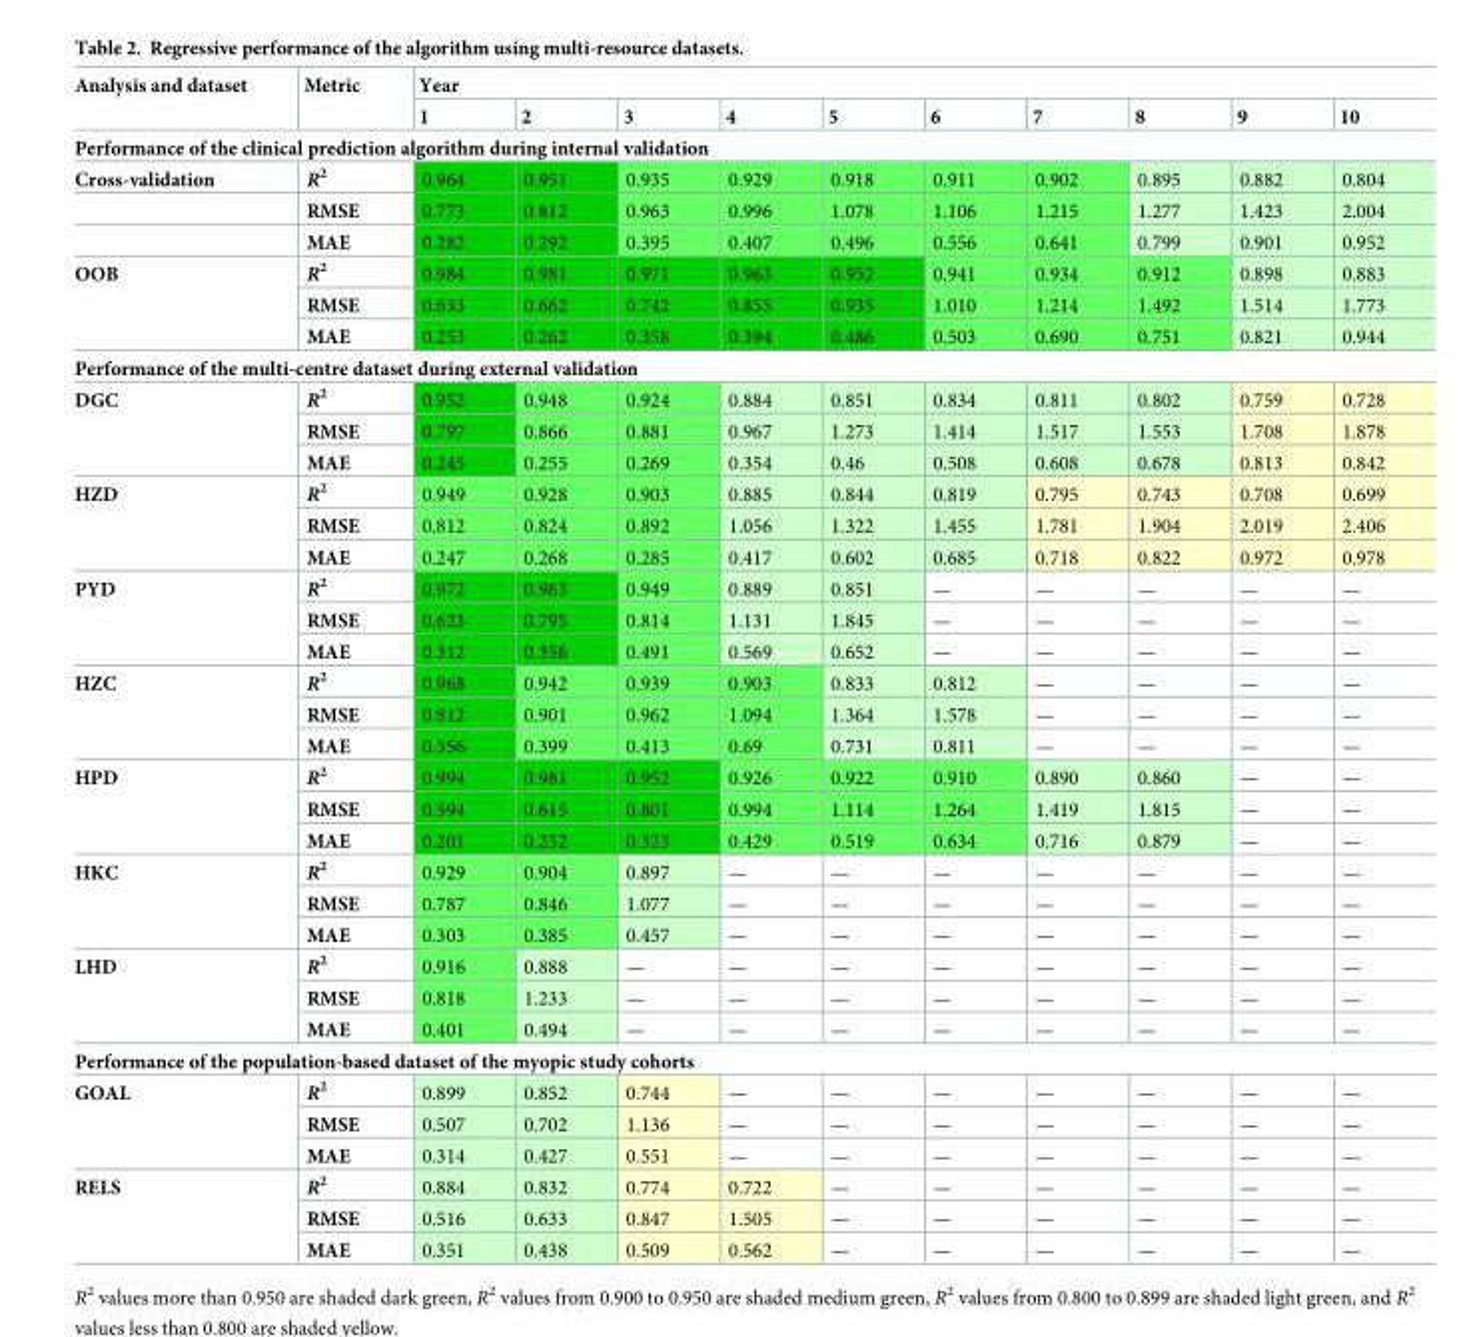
<table><thead><tr><td rowspan="2">Analysis and dataset</td><td rowspan="2">Metric</td><td colspan="10">Year</td></tr><tr><td>1</td><td>2</td><td>3</td><td>4</td><td>5</td><td>6</td><td>7</td><td>8</td><td>9</td><td>10</td></tr></thead><tbody><tr><td colspan="12">Performance of the clinical prediction algorithm during internal validation</td></tr><tr><td rowspan="3">Cross-validation</td><td>R<sup>2</sup></td><td>0.964</td><td>0.951</td><td>0.935</td><td>0.929</td><td>0.918</td><td>0.911</td><td>0.902</td><td>0.895</td><td>0.882</td><td>0.804</td></tr><tr><td>RMSE</td><td>0.773</td><td>0.812</td><td>0.963</td><td>0.996</td><td>1.078</td><td>1.106</td><td>1.215</td><td>1.277</td><td>1.423</td><td>2.004</td></tr><tr><td>MAE</td><td>0.282</td><td>0.292</td><td>0.395</td><td>0.407</td><td>0.496</td><td>0.556</td><td>0.641</td><td>0.799</td><td>0.901</td><td>0.952</td></tr><tr><td rowspan="3">OOB</td><td>R<sup>2</sup></td><td>0.984</td><td>0.981</td><td>0.971</td><td>0.963</td><td>0.952</td><td>0.941</td><td>0.934</td><td>0.912</td><td>0.898</td><td>0.883</td></tr><tr><td>RMSE</td><td>0.633</td><td>0.662</td><td>0.742</td><td>0.855</td><td>0.935</td><td>1.010</td><td>1.214</td><td>1.492</td><td>1.514</td><td>1.773</td></tr><tr><td>MAE</td><td>0.253</td><td>0.262</td><td>0.358</td><td>0.394</td><td>0.486</td><td>0.503</td><td>0.690</td><td>0.751</td><td>0.821</td><td>0.944</td></tr><tr><td colspan="12">Performance of the multi-centre dataset during external validation</td></tr><tr><td rowspan="3">DGC</td><td>R<sup>2</sup></td><td>0.952</td><td>0.948</td><td>0.924</td><td>0.884</td><td>0.851</td><td>0.834</td><td>0.811</td><td>0.802</td><td>0.759</td><td>0.728</td></tr><tr><td>RMSE</td><td>0.797</td><td>0.866</td><td>0.881</td><td>0.967</td><td>1.273</td><td>1.414</td><td>1.517</td><td>1.553</td><td>1.708</td><td>1.878</td></tr><tr><td>MAE</td><td>0.245</td><td>0.255</td><td>0.269</td><td>0.354</td><td>0.46</td><td>0.508</td><td>0.608</td><td>0.678</td><td>0.813</td><td>0.842</td></tr><tr><td rowspan="3">HZD</td><td>R<sup>2</sup></td><td>0.949</td><td>0.928</td><td>0.903</td><td>0.885</td><td>0.844</td><td>0.819</td><td>0.795</td><td>0.743</td><td>0.708</td><td>0.699</td></tr><tr><td>RMSE</td><td>0.812</td><td>0.824</td><td>0.892</td><td>1.056</td><td>1.322</td><td>1.455</td><td>1.781</td><td>1.904</td><td>2.019</td><td>2.406</td></tr><tr><td>MAE</td><td>0.247</td><td>0.268</td><td>0.285</td><td>0.417</td><td>0.602</td><td>0.685</td><td>0.718</td><td>0.822</td><td>0.972</td><td>0.978</td></tr><tr><td rowspan="3">PYD</td><td>R<sup>2</sup></td><td>0.972</td><td>0.963</td><td>0.949</td><td>0.889</td><td>0.851</td><td>—</td><td>—</td><td>—</td><td>—</td><td>—</td></tr><tr><td>RMSE</td><td>0.623</td><td>0.795</td><td>0.814</td><td>1.131</td><td>1.845</td><td>—</td><td>—</td><td>—</td><td>—</td><td>—</td></tr><tr><td>MAE</td><td>0.312</td><td>0.356</td><td>0.491</td><td>0.569</td><td>0.652</td><td>—</td><td>—</td><td>—</td><td>—</td><td>—</td></tr><tr><td rowspan="3">HZC</td><td>R<sup>2</sup></td><td>0.968</td><td>0.942</td><td>0.939</td><td>0.903</td><td>0.833</td><td>0.812</td><td>—</td><td>—</td><td>—</td><td>—</td></tr><tr><td>RMSE</td><td>0.812</td><td>0.901</td><td>0.962</td><td>1.094</td><td>1.364</td><td>1.578</td><td>—</td><td>—</td><td>—</td><td>—</td></tr><tr><td>MAE</td><td>0.356</td><td>0.399</td><td>0.413</td><td>0.69</td><td>0.731</td><td>0.811</td><td>—</td><td>—</td><td>—</td><td>—</td></tr><tr><td rowspan="3">HPD</td><td>R<sup>2</sup></td><td>0.994</td><td>0.981</td><td>0.952</td><td>0.926</td><td>0.922</td><td>0.910</td><td>0.890</td><td>0.860</td><td>—</td><td>—</td></tr><tr><td>RMSE</td><td>0.594</td><td>0.615</td><td>0.801</td><td>0.994</td><td>1.114</td><td>1.264</td><td>1.419</td><td>1.815</td><td>—</td><td>—</td></tr><tr><td>MAE</td><td>0.201</td><td>0.252</td><td>0.323</td><td>0.429</td><td>0.519</td><td>0.634</td><td>0.716</td><td>0.879</td><td>—</td><td>—</td></tr><tr><td rowspan="3">HKC</td><td>R<sup>2</sup></td><td>0.929</td><td>0.904</td><td>0.897</td><td>—</td><td>—</td><td>—</td><td>—</td><td>—</td><td>—</td><td>—</td></tr><tr><td>RMSE</td><td>0.787</td><td>0.846</td><td>1.077</td><td>—</td><td>—</td><td>—</td><td>—</td><td>—</td><td>—</td><td>—</td></tr><tr><td>MAE</td><td>0.303</td><td>0.385</td><td>0.457</td><td>—</td><td>—</td><td>—</td><td>—</td><td>—</td><td>—</td><td>—</td></tr><tr><td rowspan="3">LHD</td><td>R<sup>2</sup></td><td>0.916</td><td>0.888</td><td>—</td><td>—</td><td>—</td><td>—</td><td>—</td><td>—</td><td>—</td><td>—</td></tr><tr><td>RMSE</td><td>0.818</td><td>1.233</td><td>—</td><td>—</td><td>—</td><td>—</td><td>—</td><td>—</td><td>—</td><td>—</td></tr><tr><td>MAE</td><td>0.401</td><td>0.494</td><td>—</td><td>—</td><td>—</td><td>—</td><td>—</td><td>—</td><td>—</td><td>—</td></tr><tr><td colspan="12">Performance of the population-based dataset of the myopic study cohorts</td></tr><tr><td rowspan="3">GOAL</td><td>R<sup>2</sup></td><td>0.899</td><td>0.852</td><td>0.744</td><td>—</td><td>—</td><td>—</td><td>—</td><td>—</td><td>—</td><td>—</td></tr><tr><td>RMSE</td><td>0.507</td><td>0.702</td><td>1.136</td><td>—</td><td>—</td><td>—</td><td>—</td><td>—</td><td>—</td><td>—</td></tr><tr><td>MAE</td><td>0.314</td><td>0.427</td><td>0.551</td><td>—</td><td>—</td><td>—</td><td>—</td><td>—</td><td>—</td><td>—</td></tr><tr><td rowspan="3">RELS</td><td>R<sup>2</sup></td><td>0.884</td><td>0.832</td><td>0.774</td><td>0.722</td><td>—</td><td>—</td><td>—</td><td>—</td><td>—</td><td>—</td></tr><tr><td>RMSE</td><td>0.516</td><td>0.633</td><td>0.847</td><td>1.505</td><td>—</td><td>—</td><td>—</td><td>—</td><td>—</td><td>—</td></tr><tr><td>MAE</td><td>0.351</td><td>0.438</td><td>0.509</td><td>0.562</td><td>—</td><td>—</td><td>—</td><td>—</td><td>—</td><td>—</td></tr></tbody></table>